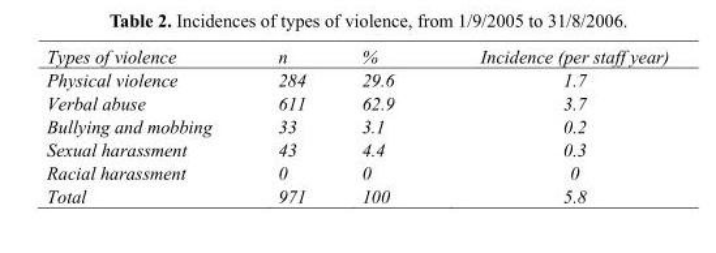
<table><thead><tr><td>Types of violence</td><td>n</td><td>%</td><td>Incidence (per staff year)</td></tr></thead><tbody><tr><td>Physical violence</td><td>284</td><td>29.6</td><td>1.7</td></tr><tr><td>Verbal abuse</td><td>611</td><td>62.9</td><td>3.7</td></tr><tr><td>Bullying and mobbing</td><td>33</td><td>3.1</td><td>0.2</td></tr><tr><td>Sexual harassment</td><td>43</td><td>4.4</td><td>0.3</td></tr><tr><td>Racial harassment</td><td>0</td><td>0</td><td>0</td></tr><tr><td>Total</td><td>971</td><td>100</td><td>5.8</td></tr></tbody></table>